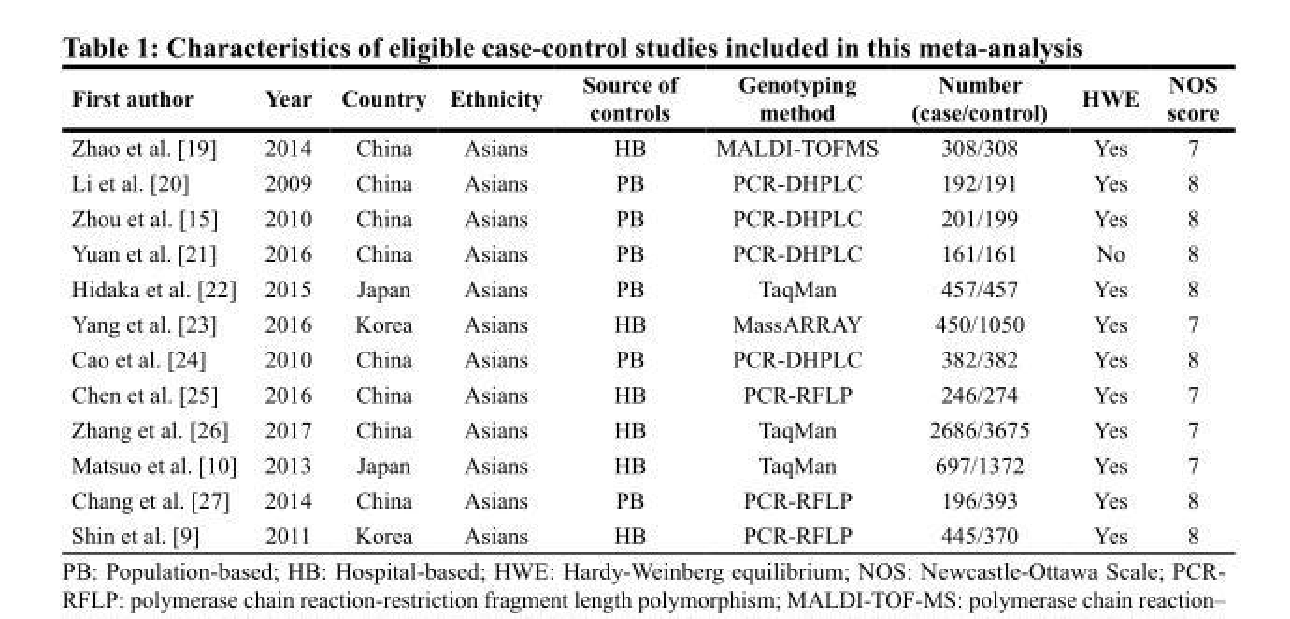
<table><thead><tr><td>First author</td><td>Year</td><td>Country</td><td>Ethnicity</td><td>Source of controls</td><td>Genotyping method</td><td>Number (case/control)</td><td>HWE</td><td>NOS score</td></tr></thead><tbody><tr><td>Zhao et al. [19]</td><td>2014</td><td>China</td><td>Asians</td><td>HB</td><td>MALDI-TOFMS</td><td>308/308</td><td>Yes</td><td>7</td></tr><tr><td>Li et al. [20]</td><td>2009</td><td>China</td><td>Asians</td><td>PB</td><td>PCR-DHPLC</td><td>192/191</td><td>Yes</td><td>8</td></tr><tr><td>Zhou et al. [15]</td><td>2010</td><td>China</td><td>Asians</td><td>PB</td><td>PCR-DHPLC</td><td>201/199</td><td>Yes</td><td>8</td></tr><tr><td>Yuan et al. [21]</td><td>2016</td><td>China</td><td>Asians</td><td>PB</td><td>PCR-DHPLC</td><td>161/161</td><td>No</td><td>8</td></tr><tr><td>Hidaka et al. [22]</td><td>2015</td><td>Japan</td><td>Asians</td><td>PB</td><td>TaqMan</td><td>457/457</td><td>Yes</td><td>8</td></tr><tr><td>Yang et al. [23]</td><td>2016</td><td>Korea</td><td>Asians</td><td>HB</td><td>MassARRAY</td><td>450/1050</td><td>Yes</td><td>7</td></tr><tr><td>Cao et al. [24]</td><td>2010</td><td>China</td><td>Asians</td><td>PB</td><td>PCR-DHPLC</td><td>382/382</td><td>Yes</td><td>8</td></tr><tr><td>Chen et al. [25]</td><td>2016</td><td>China</td><td>Asians</td><td>HB</td><td>PCR-RFLP</td><td>246/274</td><td>Yes</td><td>7</td></tr><tr><td>Zhang et al. [26]</td><td>2017</td><td>China</td><td>Asians</td><td>HB</td><td>TaqMan</td><td>2686/3675</td><td>Yes</td><td>7</td></tr><tr><td>Matsuo et al. [10]</td><td>2013</td><td>Japan</td><td>Asians</td><td>HB</td><td>TaqMan</td><td>697/1372</td><td>Yes</td><td>7</td></tr><tr><td>Chang et al. [27]</td><td>2014</td><td>China</td><td>Asians</td><td>PB</td><td>PCR-RFLP</td><td>196/393</td><td>Yes</td><td>8</td></tr><tr><td>Shin et al. [9]</td><td>2011</td><td>Korea</td><td>Asians</td><td>HB</td><td>PCR-RFLP</td><td>445/370</td><td>Yes</td><td>8</td></tr></tbody></table>